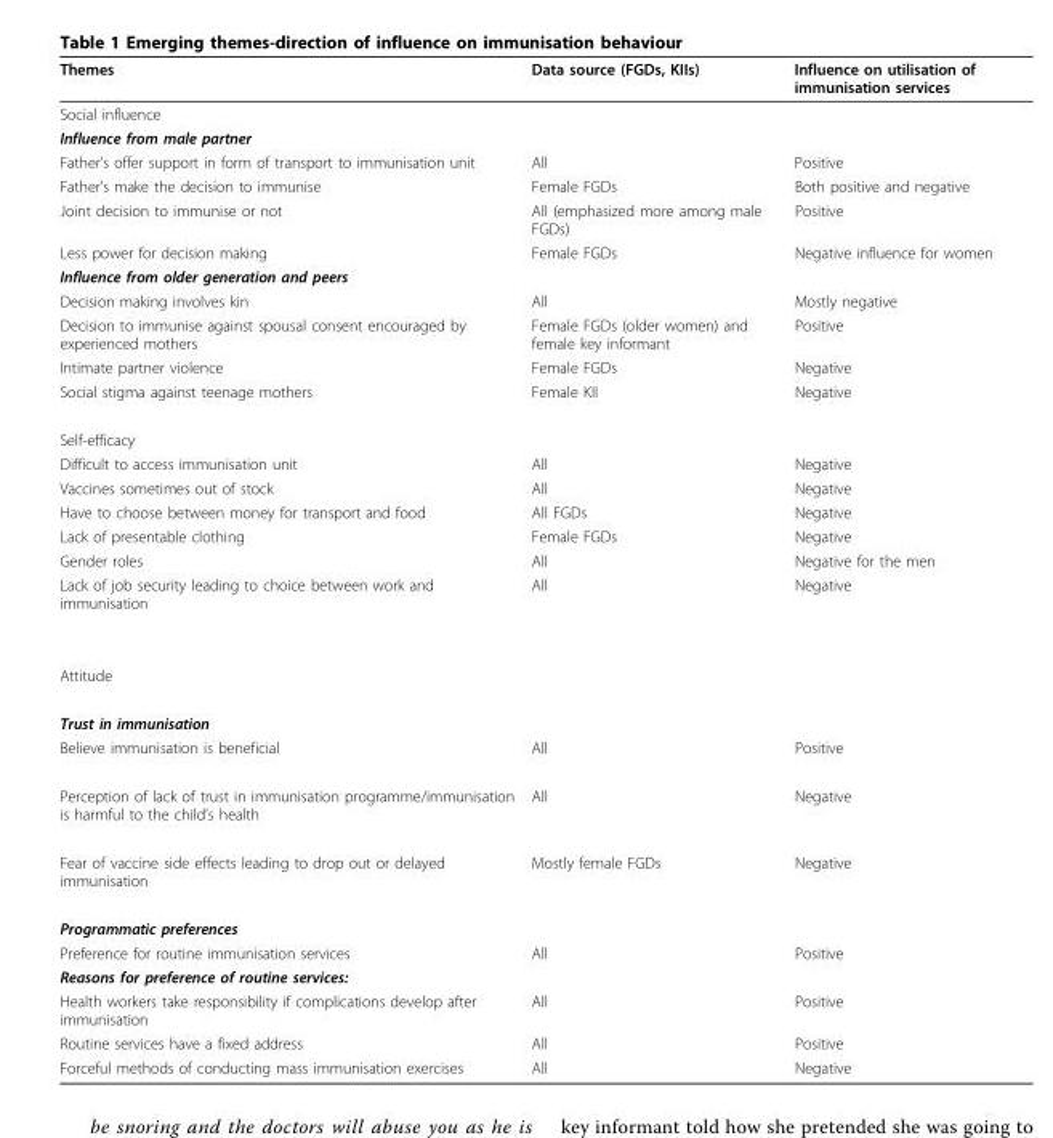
<table><thead><tr><td>Themes</td><td>Data source (FGDs, KIIs)</td><td>Influence on utilisation of immunisation services</td></tr></thead><tbody><tr><td colspan="3">Social influence</td></tr><tr><td colspan="3">Influence from male partner</td></tr><tr><td>Father’s offer support in form of transport to immunisation unit</td><td>All</td><td>Positive</td></tr><tr><td>Father’s make the decision to immunise</td><td>Female FGDs</td><td>Both positive and negative</td></tr><tr><td>Joint decision to immunise or not</td><td>All (emphasized more among male FGDs)</td><td>Positive</td></tr><tr><td>Less power for decision making</td><td>Female FGDs</td><td>Negative influence for women</td></tr><tr><td colspan="3">Influence from older generation and peers</td></tr><tr><td>Decision making involves kin</td><td>All</td><td>Mostly negative</td></tr><tr><td>Decision to immunise against spousal consent encouraged by experienced mothers</td><td>Female FGDs (older women) and female key informant</td><td>Positive</td></tr><tr><td>Intimate partner violence</td><td>Female FGDs</td><td>Negative</td></tr><tr><td>Social stigma against teenage mothers</td><td>Female KII</td><td>Negative</td></tr><tr><td colspan="3">Self-efficacy</td></tr><tr><td>Difficult to access immunisation unit</td><td>All</td><td>Negative</td></tr><tr><td>Vaccines sometimes out of stock</td><td>All</td><td>Negative</td></tr><tr><td>Have to choose between money for transport and food</td><td>All FGDs</td><td>Negative</td></tr><tr><td>Lack of presentable clothing</td><td>Female FGDs</td><td>Negative</td></tr><tr><td>Gender roles</td><td>All</td><td>Negative for the men</td></tr><tr><td>Lack of job security leading to choice between work and immunisation</td><td>All</td><td>Negative</td></tr><tr><td colspan="3">Attitude</td></tr><tr><td colspan="3">Trust in immunisation</td></tr><tr><td>Believe immunisation is beneficial</td><td>All</td><td>Positive</td></tr><tr><td>Perception of lack of trust in immunisation programme/immunisation is harmful to the child’s health</td><td>All</td><td>Negative</td></tr><tr><td>Fear of vaccine side effects leading to drop out or delayed immunisation</td><td>Mostly female FGDs</td><td>Negative</td></tr><tr><td colspan="3">Programmatic preferences</td></tr><tr><td>Preference for routine immunisation services</td><td>All</td><td>Positive</td></tr><tr><td colspan="3">Reasons for preference of routine services:</td></tr><tr><td>Health workers take responsibility if complications develop after immunisation</td><td>All</td><td>Positive</td></tr><tr><td>Routine services have a fixed address</td><td>All</td><td>Positive</td></tr><tr><td>Forceful methods of conducting mass immunisation exercises</td><td>All</td><td>Negative</td></tr></tbody></table>